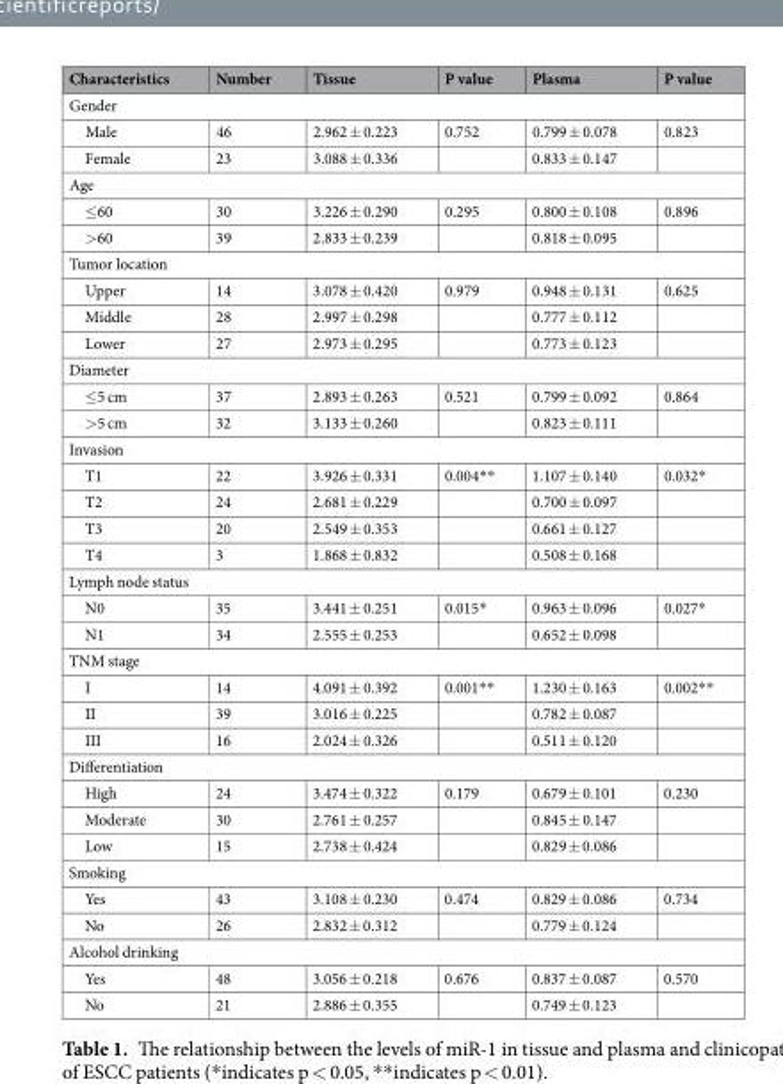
<table><thead><tr><td>Characteristics</td><td>Number</td><td>Tissue</td><td>P value</td><td>Plasma</td><td>P value</td></tr></thead><tbody><tr><td colspan="6">Gender</td></tr><tr><td>Male</td><td>46</td><td>2.962 ± 0.223</td><td>0.752</td><td>0.799 ± 0.078</td><td>0.823</td></tr><tr><td>Female</td><td>23</td><td>3.088 ± 0.336</td><td></td><td>0.833 ± 0.147</td><td></td></tr><tr><td colspan="6">Age</td></tr><tr><td>≤60</td><td>30</td><td>3.226 ± 0.290</td><td>0.295</td><td>0.800 ± 0.108</td><td>0.896</td></tr><tr><td>&gt;60</td><td>39</td><td>2.833 ± 0.239</td><td></td><td>0.818 ± 0.095</td><td></td></tr><tr><td colspan="6">Tumor location</td></tr><tr><td>Upper</td><td>14</td><td>3.078 ± 0.420</td><td>0.979</td><td>0.948 ± 0.131</td><td>0.625</td></tr><tr><td>Middle</td><td>28</td><td>2.997 ± 0.298</td><td></td><td>0.777 ± 0.112</td><td></td></tr><tr><td>Lower</td><td>27</td><td>2.973 ± 0.295</td><td></td><td>0.773 ± 0.123</td><td></td></tr><tr><td colspan="6">Diameter</td></tr><tr><td>≤5 cm</td><td>37</td><td>2.893 ± 0.263</td><td>0.521</td><td>0.799 ± 0.092</td><td>0.864</td></tr><tr><td>&gt;5 cm</td><td>32</td><td>3.133 ± 0.260</td><td></td><td>0.823 ± 0.111</td><td></td></tr><tr><td colspan="6">Invasion</td></tr><tr><td>T1</td><td>22</td><td>3.926 ± 0.331</td><td>0.004**</td><td>1.107 ± 0.140</td><td>0.032*</td></tr><tr><td>T2</td><td>24</td><td>2.681 ± 0.229</td><td></td><td>0.700 ± 0.097</td><td></td></tr><tr><td>T3</td><td>20</td><td>2.549 ± 0.353</td><td></td><td>0.661 ± 0.127</td><td></td></tr><tr><td>T4</td><td>3</td><td>1.868 ± 0.832</td><td></td><td>0.508 ± 0.168</td><td></td></tr><tr><td colspan="6">Lymph node status</td></tr><tr><td>N0</td><td>35</td><td>3.441 ± 0.251</td><td>0.015*</td><td>0.963 ± 0.096</td><td>0.027*</td></tr><tr><td>N1</td><td>34</td><td>2.555 ± 0.253</td><td></td><td>0.652 ± 0.098</td><td></td></tr><tr><td colspan="6">TNM stage</td></tr><tr><td>I</td><td>14</td><td>4.091 ± 0.392</td><td>0.001**</td><td>1.230 ± 0.163</td><td>0.002**</td></tr><tr><td>II</td><td>39</td><td>3.016 ± 0.225</td><td></td><td>0.782 ± 0.087</td><td></td></tr><tr><td>III</td><td>16</td><td>2.024 ± 0.326</td><td></td><td>0.511 ± 0.120</td><td></td></tr><tr><td colspan="6">Differentiation</td></tr><tr><td>High</td><td>24</td><td>3.474 ± 0.322</td><td>0.179</td><td>0.679 ± 0.101</td><td>0.230</td></tr><tr><td>Moderate</td><td>30</td><td>2.761 ± 0.257</td><td></td><td>0.845 ± 0.147</td><td></td></tr><tr><td>Low</td><td>15</td><td>2.738 ± 0.424</td><td></td><td>0.829 ± 0.086</td><td></td></tr><tr><td colspan="6">Smoking</td></tr><tr><td>Yes</td><td>43</td><td>3.108 ± 0.230</td><td>0.474</td><td>0.829 ± 0.086</td><td>0.734</td></tr><tr><td>No</td><td>26</td><td>2.832 ± 0.312</td><td></td><td>0.779 ± 0.124</td><td></td></tr><tr><td colspan="6">Alcohol drinking</td></tr><tr><td>Yes</td><td>48</td><td>3.056 ± 0.218</td><td>0.676</td><td>0.837 ± 0.087</td><td>0.570</td></tr><tr><td>No</td><td>21</td><td>2.886 ± 0.355</td><td></td><td>0.749 ± 0.123</td><td></td></tr></tbody></table>